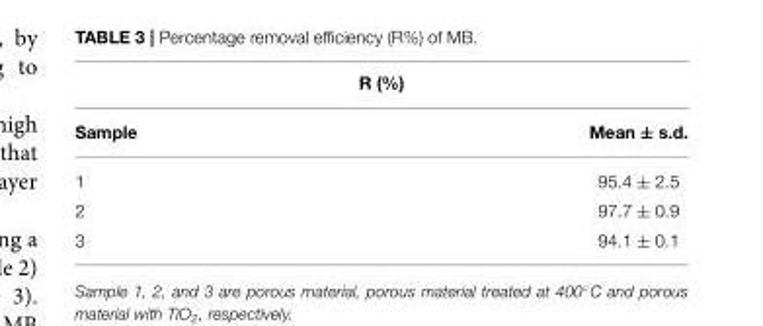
<table><thead><tr><td colspan="2">R (%)</td></tr><tr><td>Sample</td><td>Mean ± s.d.</td></tr></thead><tbody><tr><td>1</td><td>95.4 ± 2.5</td></tr><tr><td>2</td><td>97.7 ± 0.9</td></tr><tr><td>3</td><td>94.1 ± 0.1</td></tr></tbody></table>